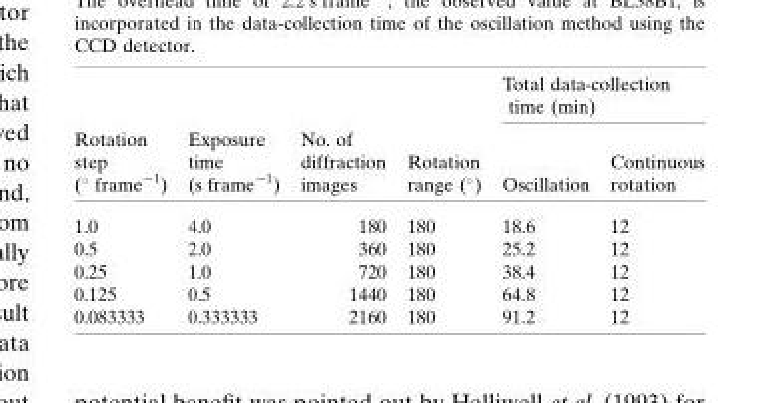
<table><thead><tr><td rowspan="2">Rotation step (� frame�1)</td><td rowspan="2">Exposure time (s frame�1)</td><td rowspan="2">No. of diffraction images</td><td rowspan="2">Rotation range (�)</td><td colspan="2">Total data-collection time (min)</td></tr><tr><td>Oscillation</td><td>Continuous rotation</td></tr></thead><tbody><tr><td>1.0</td><td>4.0</td><td>180</td><td>180</td><td>18.6</td><td>12</td></tr><tr><td>0.5</td><td>2.0</td><td>360</td><td>180</td><td>25.2</td><td>12</td></tr><tr><td>0.25</td><td>1.0</td><td>720</td><td>180</td><td>38.4</td><td>12</td></tr><tr><td>0.125</td><td>0.5</td><td>1440</td><td>180</td><td>64.8</td><td>12</td></tr><tr><td>0.083333</td><td>0.333333</td><td>2160</td><td>180</td><td>91.2</td><td>12</td></tr></tbody></table>